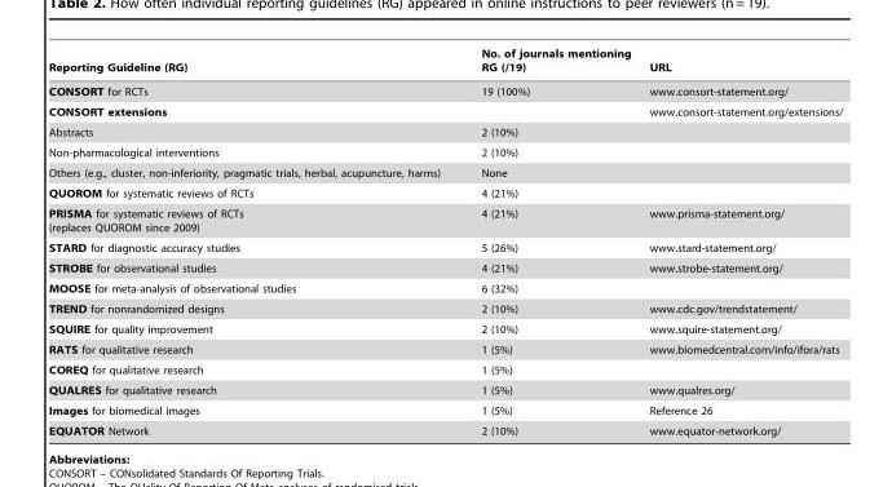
<table><thead><tr><td>Reporting Guideline (RG)</td><td>No. of journals mentioning RG (/19)</td><td>URL</td></tr></thead><tbody><tr><td>CONSORT for RCTs</td><td>19 (100%)</td><td>www.consort-statement.org/</td></tr><tr><td>CONSORT extensions</td><td></td><td>www.consort-statement.org/extensions/</td></tr><tr><td>Abstracts</td><td>2 (10%)</td><td></td></tr><tr><td>Non-pharmacological interventions</td><td>2 (10%)</td><td></td></tr><tr><td>Others (e.g., cluster, non-inferiority, pragmatic trials, herbal, acupuncture, harms)</td><td>None</td><td></td></tr><tr><td>QUOROM for systematic reviews of RCTs</td><td>4 (21%)</td><td></td></tr><tr><td>PRISMA for systematic reviews of RCTs (replaces QUOROM since 2009)</td><td>4 (21%)</td><td>www.prisma-statement.org/</td></tr><tr><td>STARD for diagnostic accuracy studies</td><td>5 (26%)</td><td>www.stard-statement.org/</td></tr><tr><td>STROBE for observational studies</td><td>4 (21%)</td><td>www.strobe-statement.org/</td></tr><tr><td>MOOSE for meta-analysis of observational studies</td><td>6 (32%)</td><td></td></tr><tr><td>TREND for nonrandomized designs</td><td>2 (10%)</td><td>www.cdc.gov/trendstatement/</td></tr><tr><td>SQUIRE for quality improvement</td><td>2 (10%)</td><td>www.squire-statement.org/</td></tr><tr><td>RATS for qualitative research</td><td>1 (5%)</td><td>www.biomedcentral.com/info/ifora/rats</td></tr><tr><td>COREQ for qualitative research</td><td>1 (5%)</td><td></td></tr><tr><td>QUALRES for qualitative research</td><td>1 (5%)</td><td>www.qualres.org/</td></tr><tr><td>Images for biomedical images</td><td>1 (5%)</td><td>Reference 26</td></tr><tr><td>EQUATOR Network</td><td>2 (10%)</td><td>www.equator-network.org/</td></tr></tbody></table>